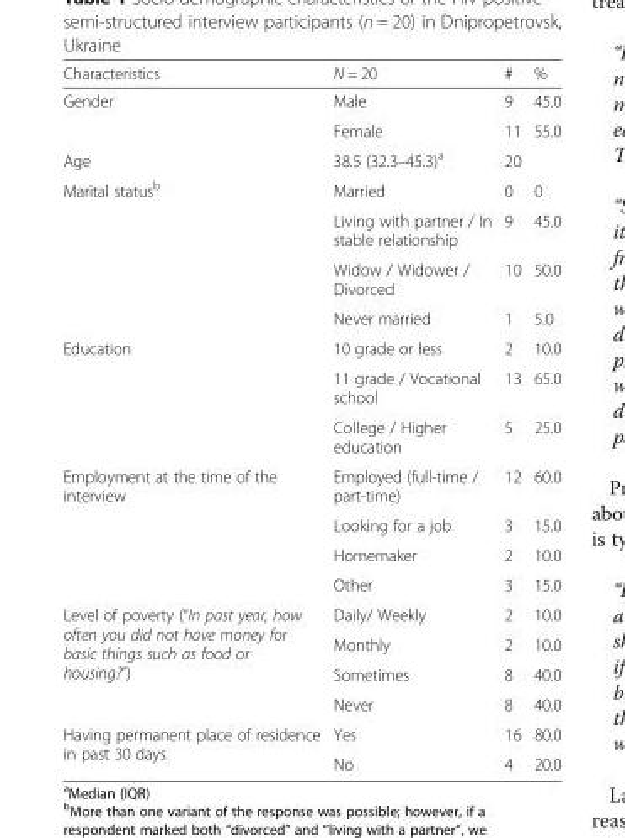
<table><thead><tr><td>Characteristics</td><td>N = 20</td><td>#</td><td>%</td></tr></thead><tbody><tr><td rowspan="2">Gender</td><td>Male</td><td>9</td><td>45.0</td></tr><tr><td>Female</td><td>11</td><td>55.0</td></tr><tr><td>Age</td><td>38.5 (32.3–45.3)<sup>a</sup></td><td>20</td><td></td></tr><tr><td rowspan="4">Marital status<sup>b</sup></td><td>Married</td><td>0</td><td>0</td></tr><tr><td>Living with partner / In stable relationship</td><td>9</td><td>45.0</td></tr><tr><td>Widow / Widower / Divorced</td><td>10</td><td>50.0</td></tr><tr><td>Never married</td><td>1</td><td>5.0</td></tr><tr><td rowspan="3">Education</td><td>10 grade or less</td><td>2</td><td>10.0</td></tr><tr><td>11 grade / Vocational school</td><td>13</td><td>65.0</td></tr><tr><td>College / Higher education</td><td>5</td><td>25.0</td></tr><tr><td rowspan="4">Employment at the time of the interview</td><td>Employed (full-time / part-time)</td><td>12</td><td>60.0</td></tr><tr><td>Looking for a job</td><td>3</td><td>15.0</td></tr><tr><td>Homemaker</td><td>2</td><td>10.0</td></tr><tr><td>Other</td><td>3</td><td>15.0</td></tr><tr><td rowspan="4">Level of poverty (“In past year, how often you did not have money for basic things such as food or housing?”)</td><td>Daily/ Weekly</td><td>2</td><td>10.0</td></tr><tr><td>Monthly</td><td>2</td><td>10.0</td></tr><tr><td>Sometimes</td><td>8</td><td>40.0</td></tr><tr><td>Never</td><td>8</td><td>40.0</td></tr><tr><td rowspan="2">Having permanent place of residence in past 30 days</td><td>Yes</td><td>16</td><td>80.0</td></tr><tr><td>No</td><td>4</td><td>20.0</td></tr></tbody></table>